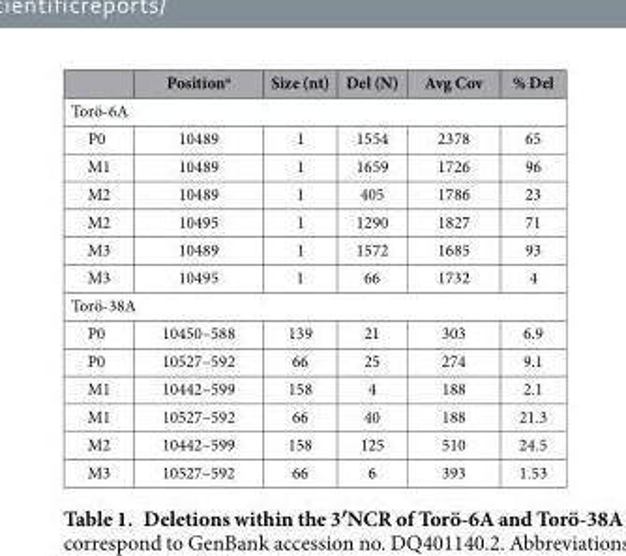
<table><thead><tr><td></td><td>Position<sup>a</sup></td><td>Size (nt)</td><td>Del (N)</td><td>Avg Cov</td><td>% Del</td></tr></thead><tbody><tr><td colspan="6">Torö-6A</td></tr><tr><td>P0</td><td>10489</td><td>1</td><td>1554</td><td>2378</td><td>65</td></tr><tr><td>M1</td><td>10489</td><td>1</td><td>1659</td><td>1726</td><td>96</td></tr><tr><td>M2</td><td>10489</td><td>1</td><td>405</td><td>1786</td><td>23</td></tr><tr><td>M2</td><td>10495</td><td>1</td><td>1290</td><td>1827</td><td>71</td></tr><tr><td>M3</td><td>10489</td><td>1</td><td>1572</td><td>1685</td><td>93</td></tr><tr><td>M3</td><td>10495</td><td>1</td><td>66</td><td>1732</td><td>4</td></tr><tr><td colspan="6">Torö-38A</td></tr><tr><td>P0</td><td>10450–588</td><td>139</td><td>21</td><td>303</td><td>6.9</td></tr><tr><td>P0</td><td>10527–592</td><td>66</td><td>25</td><td>274</td><td>9.1</td></tr><tr><td>M1</td><td>10442–599</td><td>158</td><td>4</td><td>188</td><td>2.1</td></tr><tr><td>M1</td><td>10527–592</td><td>66</td><td>40</td><td>188</td><td>21.3</td></tr><tr><td>M2</td><td>10442–599</td><td>158</td><td>125</td><td>510</td><td>24.5</td></tr><tr><td>M3</td><td>10527–592</td><td>66</td><td>6</td><td>393</td><td>1.53</td></tr></tbody></table>